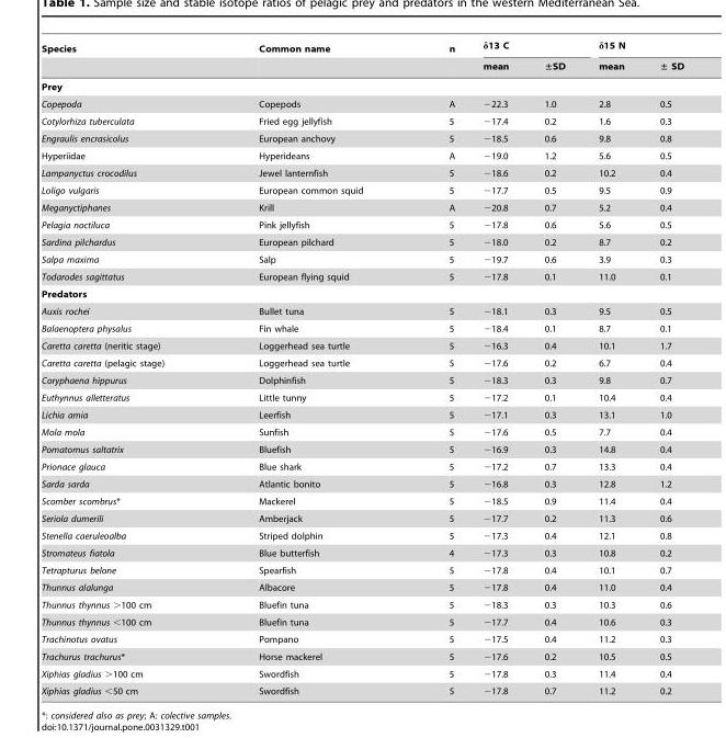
<table><thead><tr><td rowspan="2">Species</td><td rowspan="2">Common name</td><td rowspan="2">n</td><td colspan="2">δ13 C</td><td colspan="2">δ15 N</td></tr><tr><td>mean</td><td>±SD</td><td>mean</td><td>± SD</td></tr></thead><tbody><tr><td colspan="7">Prey</td></tr><tr><td>Copepoda</td><td>Copepods</td><td>A</td><td>−22.3</td><td>1.0</td><td>2.8</td><td>0.5</td></tr><tr><td>Cotylorhiza tuberculata</td><td>Fried egg jellyfish</td><td>5</td><td>−17.4</td><td>0.2</td><td>1.6</td><td>0.3</td></tr><tr><td>Engraulis encrasicolus</td><td>European anchovy</td><td>5</td><td>−18.5</td><td>0.6</td><td>9.8</td><td>0.8</td></tr><tr><td>Hyperiidae</td><td>Hyperideans</td><td>A</td><td>−19.0</td><td>1.2</td><td>5.6</td><td>0.5</td></tr><tr><td>Lampanyctus crocodilus</td><td>Jewel lanternfish</td><td>5</td><td>−18.6</td><td>0.2</td><td>10.2</td><td>0.4</td></tr><tr><td>Loligo vulgaris</td><td>European common squid</td><td>5</td><td>−17.7</td><td>0.5</td><td>9.5</td><td>0.9</td></tr><tr><td>Meganyctiphanes</td><td>Krill</td><td>A</td><td>−20.8</td><td>0.7</td><td>5.2</td><td>0.4</td></tr><tr><td>Pelagia noctiluca</td><td>Pink jellyfish</td><td>5</td><td>−17.8</td><td>0.6</td><td>5.6</td><td>0.5</td></tr><tr><td>Sardina pilchardus</td><td>European pilchard</td><td>5</td><td>−18.0</td><td>0.2</td><td>8.7</td><td>0.2</td></tr><tr><td>Salpa maxima</td><td>Salp</td><td>5</td><td>−19.7</td><td>0.6</td><td>3.9</td><td>0.3</td></tr><tr><td>Todarodes sagittatus</td><td>European flying squid</td><td>5</td><td>−17.8</td><td>0.1</td><td>11.0</td><td>0.1</td></tr><tr><td colspan="7">Predators</td></tr><tr><td>Auxis rochei</td><td>Bullet tuna</td><td>5</td><td>−18.1</td><td>0.3</td><td>9.5</td><td>0.5</td></tr><tr><td>Balaenoptera physalus</td><td>Fin whale</td><td>5</td><td>−18.4</td><td>0.1</td><td>8.7</td><td>0.1</td></tr><tr><td>Caretta caretta (neritic stage)</td><td>Loggerhead sea turtle</td><td>5</td><td>−16.3</td><td>0.4</td><td>10.1</td><td>1.7</td></tr><tr><td>Caretta caretta (pelagic stage)</td><td>Loggerhead sea turtle</td><td>5</td><td>−17.6</td><td>0.2</td><td>6.7</td><td>0.4</td></tr><tr><td>Coryphaena hippurus</td><td>Dolphinfish</td><td>5</td><td>−18.3</td><td>0.3</td><td>9.8</td><td>0.7</td></tr><tr><td>Euthynnus alletteratus</td><td>Little tunny</td><td>5</td><td>−17.2</td><td>0.1</td><td>10.4</td><td>0.4</td></tr><tr><td>Lichia amia</td><td>Leerfish</td><td>5</td><td>−17.1</td><td>0.3</td><td>13.1</td><td>1.0</td></tr><tr><td>Mola mola</td><td>Sunfish</td><td>5</td><td>−17.6</td><td>0.5</td><td>7.7</td><td>0.4</td></tr><tr><td>Pomatomus saltatrix</td><td>Bluefish</td><td>5</td><td>−16.9</td><td>0.3</td><td>14.8</td><td>0.4</td></tr><tr><td>Prionace glauca</td><td>Blue shark</td><td>5</td><td>−17.2</td><td>0.7</td><td>13.3</td><td>0.4</td></tr><tr><td>Sarda sarda</td><td>Atlantic bonito</td><td>5</td><td>−16.8</td><td>0.3</td><td>12.8</td><td>1.2</td></tr><tr><td>Scomber scombrus*</td><td>Mackerel</td><td>5</td><td>−18.5</td><td>0.9</td><td>11.4</td><td>0.4</td></tr><tr><td>Seriola dumerili</td><td>Amberjack</td><td>5</td><td>−17.7</td><td>0.2</td><td>11.3</td><td>0.6</td></tr><tr><td>Stenella caeruleoalba</td><td>Striped dolphin</td><td>5</td><td>−17.3</td><td>0.4</td><td>12.1</td><td>0.8</td></tr><tr><td>Stromateus fiatola</td><td>Blue butterfish</td><td>4</td><td>−17.3</td><td>0.3</td><td>10.8</td><td>0.2</td></tr><tr><td>Tetrapturus belone</td><td>Spearfish</td><td>5</td><td>−17.8</td><td>0.4</td><td>10.1</td><td>0.7</td></tr><tr><td>Thunnus alalunga</td><td>Albacore</td><td>5</td><td>−17.8</td><td>0.4</td><td>11.0</td><td>0.4</td></tr><tr><td>Thunnus thynnus &gt;100 cm</td><td>Bluefin tuna</td><td>5</td><td>−18.3</td><td>0.3</td><td>10.3</td><td>0.6</td></tr><tr><td>Thunnus thynnus &lt;100 cm</td><td>Bluefin tuna</td><td>5</td><td>−17.7</td><td>0.4</td><td>10.6</td><td>0.3</td></tr><tr><td>Trachinotus ovatus</td><td>Pompano</td><td>5</td><td>−17.5</td><td>0.4</td><td>11.2</td><td>0.3</td></tr><tr><td>Trachurus trachurus*</td><td>Horse mackerel</td><td>5</td><td>−17.6</td><td>0.2</td><td>10.5</td><td>0.5</td></tr><tr><td>Xiphias gladius &gt;100 cm</td><td>Swordfish</td><td>5</td><td>−17.8</td><td>0.3</td><td>11.4</td><td>0.4</td></tr><tr><td>Xiphias gladius &lt;50 cm</td><td>Swordfish</td><td>5</td><td>−17.8</td><td>0.7</td><td>11.2</td><td>0.2</td></tr></tbody></table>